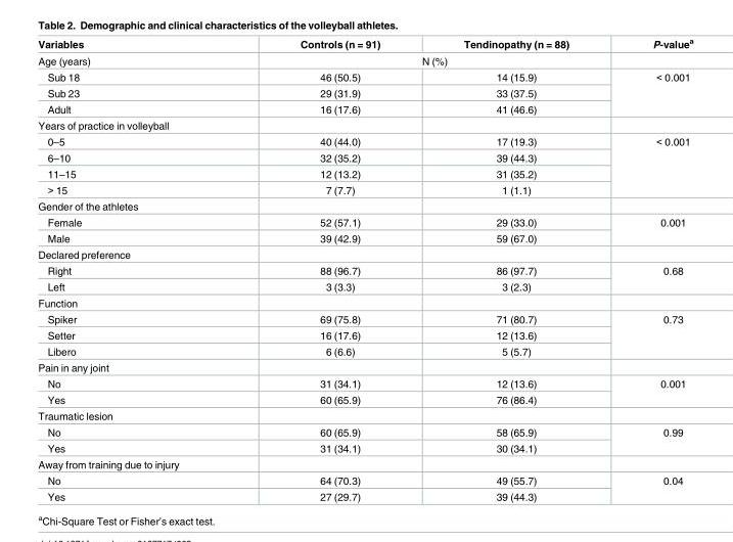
<table><thead><tr><td>Variables</td><td>Controls (n = 91)</td><td>Tendinopathy (n = 88)</td><td>P-value<sup>a</sup></td></tr></thead><tbody><tr><td>Age (years)</td><td colspan="2">N (%)</td><td></td></tr><tr><td>Sub 18</td><td>46 (50.5)</td><td>14 (15.9)</td><td rowspan="3">&lt; 0.001</td></tr><tr><td>Sub 23</td><td>29 (31.9)</td><td>33 (37.5)</td></tr><tr><td>Adult</td><td>16 (17.6)</td><td>41 (46.6)</td></tr><tr><td colspan="4">Years of practice in volleyball</td></tr><tr><td>0–5</td><td>40 (44.0)</td><td>17 (19.3)</td><td rowspan="4">&lt; 0.001</td></tr><tr><td>6–10</td><td>32 (35.2)</td><td>39 (44.3)</td></tr><tr><td>11–15</td><td>12 (13.2)</td><td>31 (35.2)</td></tr><tr><td>&gt; 15</td><td>7 (7.7)</td><td>1 (1.1)</td></tr><tr><td colspan="4">Gender of the athletes</td></tr><tr><td>Female</td><td>52 (57.1)</td><td>29 (33.0)</td><td rowspan="2">0.001</td></tr><tr><td>Male</td><td>39 (42.9)</td><td>59 (67.0)</td></tr><tr><td colspan="4">Declared preference</td></tr><tr><td>Right</td><td>88 (96.7)</td><td>86 (97.7)</td><td rowspan="2">0.68</td></tr><tr><td>Left</td><td>3 (3.3)</td><td>3 (2.3)</td></tr><tr><td colspan="4">Function</td></tr><tr><td>Spiker</td><td>69 (75.8)</td><td>71 (80.7)</td><td rowspan="3">0.73</td></tr><tr><td>Setter</td><td>16 (17.6)</td><td>12 (13.6)</td></tr><tr><td>Libero</td><td>6 (6.6)</td><td>5 (5.7)</td></tr><tr><td colspan="4">Pain in any joint</td></tr><tr><td>No</td><td>31 (34.1)</td><td>12 (13.6)</td><td rowspan="2">0.001</td></tr><tr><td>Yes</td><td>60 (65.9)</td><td>76 (86.4)</td></tr><tr><td colspan="4">Traumatic lesion</td></tr><tr><td>No</td><td>60 (65.9)</td><td>58 (65.9)</td><td rowspan="2">0.99</td></tr><tr><td>Yes</td><td>31 (34.1)</td><td>30 (34.1)</td></tr><tr><td colspan="4">Away from training due to injury</td></tr><tr><td>No</td><td>64 (70.3)</td><td>49 (55.7)</td><td rowspan="2">0.04</td></tr><tr><td>Yes</td><td>27 (29.7)</td><td>39 (44.3)</td></tr></tbody></table>